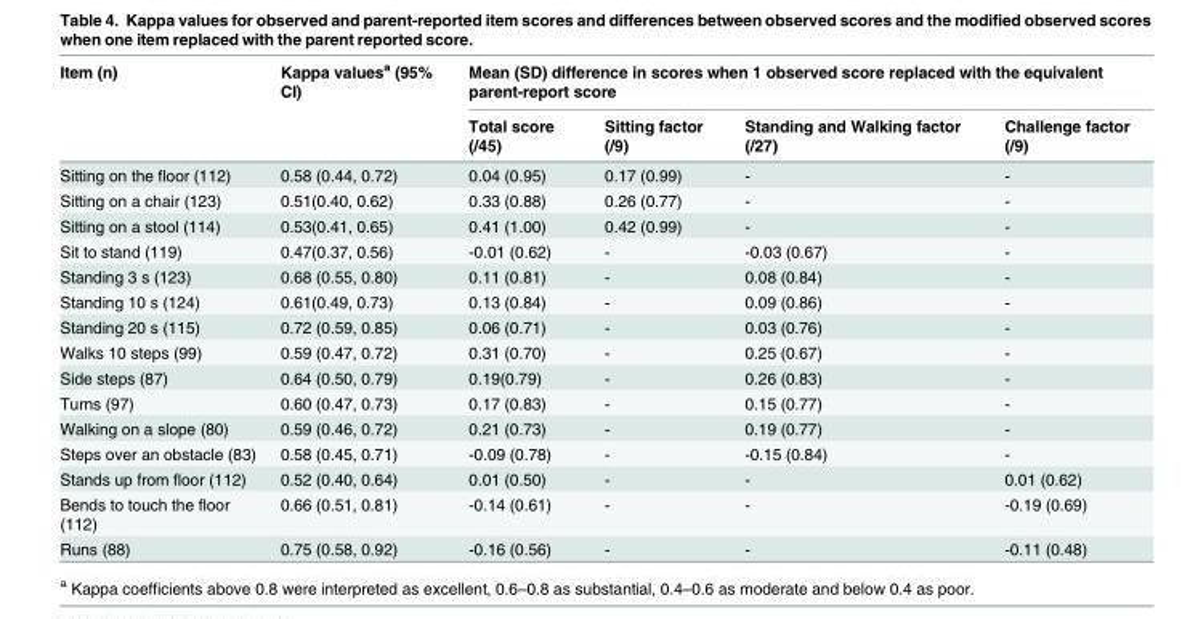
<table><thead><tr><td rowspan="2">Item (n)</td><td rowspan="2">Kappa values<sup>a</sup> (95% CI)</td><td colspan="4">Mean (SD) difference in scores when 1 observed score replaced with the equivalent parent-report score</td></tr><tr><td>Total score (/45)</td><td>Sitting factor (/9)</td><td>Standing and Walking factor (/27)</td><td>Challenge factor (/9)</td></tr></thead><tbody><tr><td>Sitting on the floor (112)</td><td>0.58 (0.44, 0.72)</td><td>0.04 (0.95)</td><td>0.17 (0.99)</td><td>-</td><td>-</td></tr><tr><td>Sitting on a chair (123)</td><td>0.51(0.40, 0.62)</td><td>0.33 (0.88)</td><td>0.26 (0.77)</td><td>-</td><td>-</td></tr><tr><td>Sitting on a stool (114)</td><td>0.53(0.41, 0.65)</td><td>0.41 (1.00)</td><td>0.42 (0.99)</td><td>-</td><td>-</td></tr><tr><td>Sit to stand (119)</td><td>0.47(0.37, 0.56)</td><td>-0.01 (0.62)</td><td>-</td><td>-0.03 (0.67)</td><td>-</td></tr><tr><td>Standing 3 s (123)</td><td>0.68 (0.55, 0.80)</td><td>0.11 (0.81)</td><td>-</td><td>0.08 (0.84)</td><td>-</td></tr><tr><td>Standing 10 s (124)</td><td>0.61(0.49, 0.73)</td><td>0.13 (0.84)</td><td>-</td><td>0.09 (0.86)</td><td>-</td></tr><tr><td>Standing 20 s (115)</td><td>0.72 (0.59, 0.85)</td><td>0.06 (0.71)</td><td>-</td><td>0.03 (0.76)</td><td>-</td></tr><tr><td>Walks 10 steps (99)</td><td>0.59 (0.47, 0.72)</td><td>0.31 (0.70)</td><td>-</td><td>0.25 (0.67)</td><td>-</td></tr><tr><td>Side steps (87)</td><td>0.64 (0.50, 0.79)</td><td>0.19(0.79)</td><td>-</td><td>0.26 (0.83)</td><td>-</td></tr><tr><td>Turns (97)</td><td>0.60 (0.47, 0.73)</td><td>0.17 (0.83)</td><td>-</td><td>0.15 (0.77)</td><td>-</td></tr><tr><td>Walking on a slope (80)</td><td>0.59 (0.46, 0.72)</td><td>0.21 (0.73)</td><td>-</td><td>0.19 (0.77)</td><td>-</td></tr><tr><td>Steps over an obstacle (83)</td><td>0.58 (0.45, 0.71)</td><td>-0.09 (0.78)</td><td>-</td><td>-0.15 (0.84)</td><td>-</td></tr><tr><td>Stands up from floor (112)</td><td>0.52 (0.40, 0.64)</td><td>0.01 (0.50)</td><td>-</td><td>-</td><td>0.01 (0.62)</td></tr><tr><td>Bends to touch the floor (112)</td><td>0.66 (0.51, 0.81)</td><td>-0.14 (0.61)</td><td>-</td><td>-</td><td>-0.19 (0.69)</td></tr><tr><td>Runs (88)</td><td>0.75 (0.58, 0.92)</td><td>-0.16 (0.56)</td><td>-</td><td>-</td><td>-0.11 (0.48)</td></tr></tbody></table>